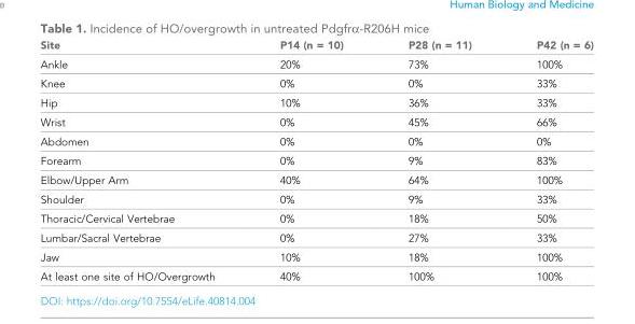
<table><thead><tr><td>Site</td><td>P14 (n = 10)</td><td>P28 (n = 11)</td><td>P42 (n = 6)</td></tr></thead><tbody><tr><td>Ankle</td><td>20%</td><td>73%</td><td>100%</td></tr><tr><td>Knee</td><td>0%</td><td>0%</td><td>33%</td></tr><tr><td>Hip</td><td>10%</td><td>36%</td><td>33%</td></tr><tr><td>Wrist</td><td>0%</td><td>45%</td><td>66%</td></tr><tr><td>Abdomen</td><td>0%</td><td>0%</td><td>0%</td></tr><tr><td>Forearm</td><td>0%</td><td>9%</td><td>83%</td></tr><tr><td>Elbow/Upper Arm</td><td>40%</td><td>64%</td><td>100%</td></tr><tr><td>Shoulder</td><td>0%</td><td>9%</td><td>33%</td></tr><tr><td>Thoracic/Cervical Vertebrae</td><td>0%</td><td>18%</td><td>50%</td></tr><tr><td>Lumbar/Sacral Vertebrae</td><td>0%</td><td>27%</td><td>33%</td></tr><tr><td>Jaw</td><td>10%</td><td>18%</td><td>100%</td></tr><tr><td>At least one site of HO/Overgrowth</td><td>40%</td><td>100%</td><td>100%</td></tr></tbody></table>